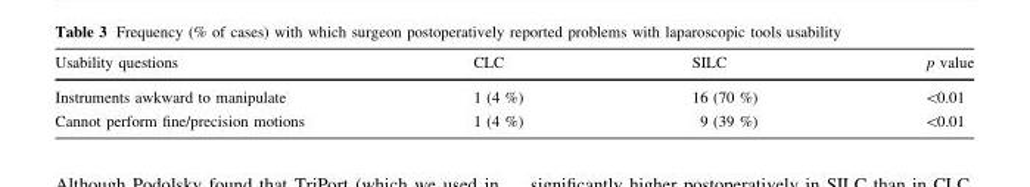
<table><thead><tr><td>Usability questions</td><td>CLC</td><td>SILC</td><td>p value</td></tr></thead><tbody><tr><td>Instruments awkward to manipulate</td><td>1 (4 %)</td><td>16 (70 %)</td><td>&lt;0.01</td></tr><tr><td>Cannot perform fine/precision motions</td><td>1 (4 %)</td><td>9 (39 %)</td><td>&lt;0.01</td></tr></tbody></table>